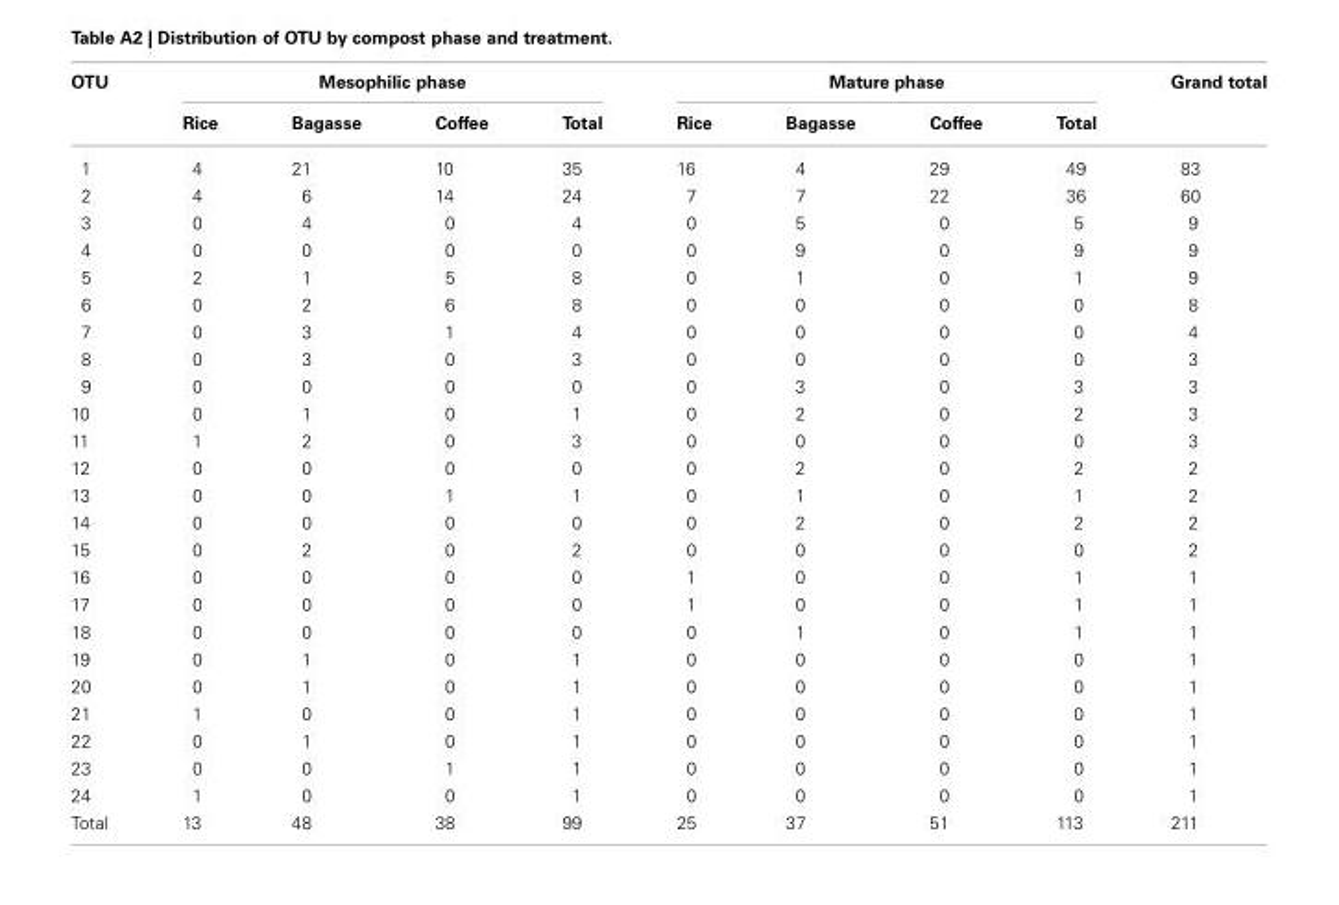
<table><thead><tr><td rowspan="2">OTU</td><td colspan="4">Mesophilic phase</td><td colspan="4">Mature phase</td><td rowspan="2">Grand total</td></tr><tr><td>Rice</td><td>Bagasse</td><td>Coffee</td><td>Total</td><td>Rice</td><td>Bagasse</td><td>Coffee</td><td>Total</td></tr></thead><tbody><tr><td>1</td><td>4</td><td>21</td><td>10</td><td>35</td><td>16</td><td>4</td><td>29</td><td>49</td><td>83</td></tr><tr><td>2</td><td>4</td><td>6</td><td>14</td><td>24</td><td>7</td><td>7</td><td>22</td><td>36</td><td>60</td></tr><tr><td>3</td><td>0</td><td>4</td><td>0</td><td>4</td><td>0</td><td>5</td><td>0</td><td>5</td><td>9</td></tr><tr><td>4</td><td>0</td><td>0</td><td>0</td><td>0</td><td>0</td><td>9</td><td>0</td><td>9</td><td>9</td></tr><tr><td>5</td><td>2</td><td>1</td><td>5</td><td>8</td><td>0</td><td>1</td><td>0</td><td>1</td><td>9</td></tr><tr><td>6</td><td>0</td><td>2</td><td>6</td><td>8</td><td>0</td><td>0</td><td>0</td><td>0</td><td>8</td></tr><tr><td>7</td><td>0</td><td>3</td><td>1</td><td>4</td><td>0</td><td>0</td><td>0</td><td>0</td><td>4</td></tr><tr><td>8</td><td>0</td><td>3</td><td>0</td><td>3</td><td>0</td><td>0</td><td>0</td><td>0</td><td>3</td></tr><tr><td>9</td><td>0</td><td>0</td><td>0</td><td>0</td><td>0</td><td>3</td><td>0</td><td>3</td><td>3</td></tr><tr><td>10</td><td>0</td><td>1</td><td>0</td><td>1</td><td>0</td><td>2</td><td>0</td><td>2</td><td>3</td></tr><tr><td>11</td><td>1</td><td>2</td><td>0</td><td>3</td><td>0</td><td>0</td><td>0</td><td>0</td><td>3</td></tr><tr><td>12</td><td>0</td><td>0</td><td>0</td><td>0</td><td>0</td><td>2</td><td>0</td><td>2</td><td>2</td></tr><tr><td>13</td><td>0</td><td>0</td><td>1</td><td>1</td><td>0</td><td>1</td><td>0</td><td>1</td><td>2</td></tr><tr><td>14</td><td>0</td><td>0</td><td>0</td><td>0</td><td>0</td><td>2</td><td>0</td><td>2</td><td>2</td></tr><tr><td>15</td><td>0</td><td>2</td><td>0</td><td>2</td><td>0</td><td>0</td><td>0</td><td>0</td><td>2</td></tr><tr><td>16</td><td>0</td><td>0</td><td>0</td><td>0</td><td>1</td><td>0</td><td>0</td><td>1</td><td>1</td></tr><tr><td>17</td><td>0</td><td>0</td><td>0</td><td>0</td><td>1</td><td>0</td><td>0</td><td>1</td><td>1</td></tr><tr><td>18</td><td>0</td><td>0</td><td>0</td><td>0</td><td>0</td><td>1</td><td>0</td><td>1</td><td>1</td></tr><tr><td>19</td><td>0</td><td>1</td><td>0</td><td>1</td><td>0</td><td>0</td><td>0</td><td>0</td><td>1</td></tr><tr><td>20</td><td>0</td><td>1</td><td>0</td><td>1</td><td>0</td><td>0</td><td>0</td><td>0</td><td>1</td></tr><tr><td>21</td><td>1</td><td>0</td><td>0</td><td>1</td><td>0</td><td>0</td><td>0</td><td>0</td><td>1</td></tr><tr><td>22</td><td>0</td><td>1</td><td>0</td><td>1</td><td>0</td><td>0</td><td>0</td><td>0</td><td>1</td></tr><tr><td>23</td><td>0</td><td>0</td><td>1</td><td>1</td><td>0</td><td>0</td><td>0</td><td>0</td><td>1</td></tr><tr><td>24</td><td>1</td><td>0</td><td>0</td><td>1</td><td>0</td><td>0</td><td>0</td><td>0</td><td>1</td></tr><tr><td>Total</td><td>13</td><td>48</td><td>38</td><td>99</td><td>25</td><td>37</td><td>51</td><td>113</td><td>211</td></tr></tbody></table>